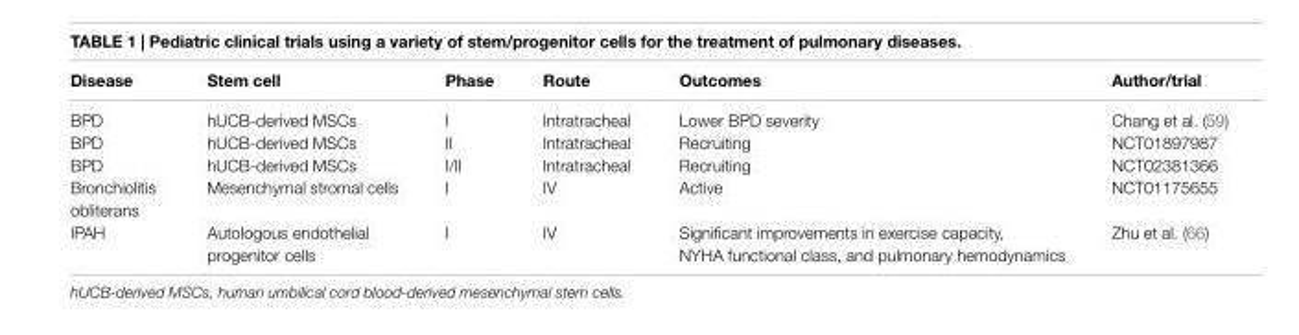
<table><thead><tr><td>Disease</td><td>Stem cell</td><td>Phase</td><td>Route</td><td>Outcomes</td><td>Author/trial</td></tr></thead><tbody><tr><td>BPD</td><td>hUCB-derived MSCs</td><td>I</td><td>Intratracheal</td><td>Lower BPD severity</td><td>Chang et al. (59)</td></tr><tr><td>BPD</td><td>hUCB-derived MSCs</td><td>II</td><td>Intratracheal</td><td>Recruiting</td><td>NCT01897987</td></tr><tr><td>BPD</td><td>hUCB-derived MSCs</td><td>I/II</td><td>Intratracheal</td><td>Recruiting</td><td>NCT02381366</td></tr><tr><td>Bronchiolitis obliterans</td><td>Mesenchymal stromal cells</td><td>I</td><td>IV</td><td>Active</td><td>NCT01175655</td></tr><tr><td>IPAH</td><td>Autologous endothelial progenitor cells</td><td>I</td><td>IV</td><td>Significant improvements in exercise capacity, NYHA functional class, and pulmonary hemodynamics</td><td>Zhu et al. (66)</td></tr></tbody></table>